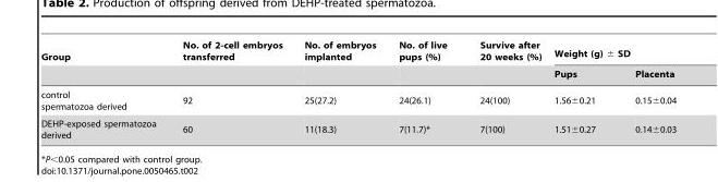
<table><thead><tr><td rowspan="2">Group</td><td rowspan="2">No. of 2-cell embryos transferred</td><td rowspan="2">No. of embryos implanted</td><td rowspan="2">No. of live pups (%)</td><td rowspan="2">Survive after 20 weeks (%)</td><td colspan="2">Weight (g) ± SD</td></tr><tr><td>Pups</td><td>Placenta</td></tr></thead><tbody><tr><td>control spermatozoa derived</td><td>92</td><td>25(27.2)</td><td>24(26.1)</td><td>24(100)</td><td>1.56±0.21</td><td>0.15±0.04</td></tr><tr><td>DEHP-exposed spermatozoa derived</td><td>60</td><td>11(18.3)</td><td>7(11.7)*</td><td>7(100)</td><td>1.51±0.27</td><td>0.14±0.03</td></tr></tbody></table>